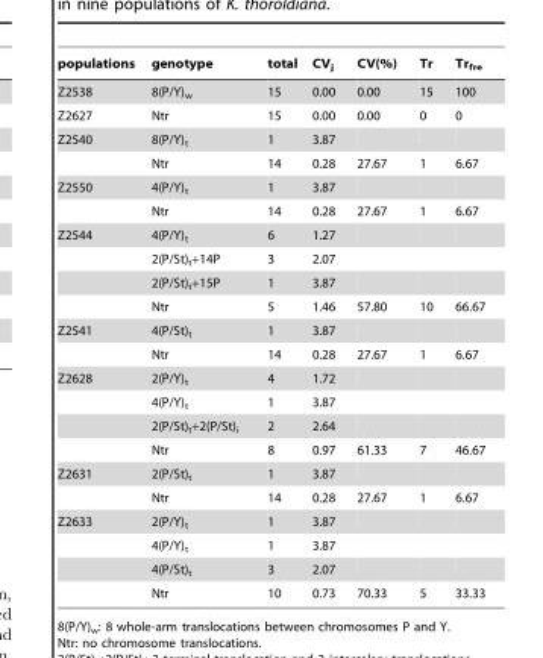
<table><thead><tr><td>populations</td><td>genotype</td><td>total</td><td>CV<sub>j</sub></td><td>CV(%)</td><td>Tr</td><td>Tr<sub>fre</sub></td></tr></thead><tbody><tr><td>Z2538</td><td>8(P/Y)<sub>w</sub></td><td>15</td><td>0.00</td><td>0.00</td><td>15</td><td>100</td></tr><tr><td>Z2627</td><td>Ntr</td><td>15</td><td>0.00</td><td>0.00</td><td>0</td><td>0</td></tr><tr><td rowspan="2">Z2540</td><td>8(P/Y)<sub>t</sub></td><td>1</td><td>3.87</td><td></td><td></td><td></td></tr><tr><td>Ntr</td><td>14</td><td>0.28</td><td>27.67</td><td>1</td><td>6.67</td></tr><tr><td rowspan="2">Z2550</td><td>4(P/Y)<sub>t</sub></td><td>1</td><td>3.87</td><td></td><td></td><td></td></tr><tr><td>Ntr</td><td>14</td><td>0.28</td><td>27.67</td><td>1</td><td>6.67</td></tr><tr><td rowspan="4">Z2544</td><td>4(P/Y)<sub>t</sub></td><td>6</td><td>1.27</td><td></td><td></td><td></td></tr><tr><td>2(P/St)<sub>t</sub>+14P</td><td>3</td><td>2.07</td><td></td><td></td><td></td></tr><tr><td>2(P/St)<sub>t</sub>+15P</td><td>1</td><td>3.87</td><td></td><td></td><td></td></tr><tr><td>Ntr</td><td>5</td><td>1.46</td><td>57.80</td><td>10</td><td>66.67</td></tr><tr><td rowspan="2">Z2541</td><td>4(P/St)<sub>t</sub></td><td>1</td><td>3.87</td><td></td><td></td><td></td></tr><tr><td>Ntr</td><td>14</td><td>0.28</td><td>27.67</td><td>1</td><td>6.67</td></tr><tr><td rowspan="4">Z2628</td><td>2(P/Y)<sub>t</sub></td><td>4</td><td>1.72</td><td></td><td></td><td></td></tr><tr><td>4(P/Y)<sub>t</sub></td><td>1</td><td>3.87</td><td></td><td></td><td></td></tr><tr><td>2(P/St)<sub>t</sub>+2(P/St)<sub>i</sub></td><td>2</td><td>2.64</td><td></td><td></td><td></td></tr><tr><td>Ntr</td><td>8</td><td>0.97</td><td>61.33</td><td>7</td><td>46.67</td></tr><tr><td rowspan="2">Z2631</td><td>2(P/St)<sub>t</sub></td><td>1</td><td>3.87</td><td></td><td></td><td></td></tr><tr><td>Ntr</td><td>14</td><td>0.28</td><td>27.67</td><td>1</td><td>6.67</td></tr><tr><td rowspan="4">Z2633</td><td>2(P/Y)<sub>t</sub></td><td>1</td><td>3.87</td><td></td><td></td><td></td></tr><tr><td>4(P/Y)<sub>t</sub></td><td>1</td><td>3.87</td><td></td><td></td><td></td></tr><tr><td>4(P/St)<sub>t</sub></td><td>3</td><td>2.07</td><td></td><td></td><td></td></tr><tr><td>Ntr</td><td>10</td><td>0.73</td><td>70.33</td><td>5</td><td>33.33</td></tr></tbody></table>